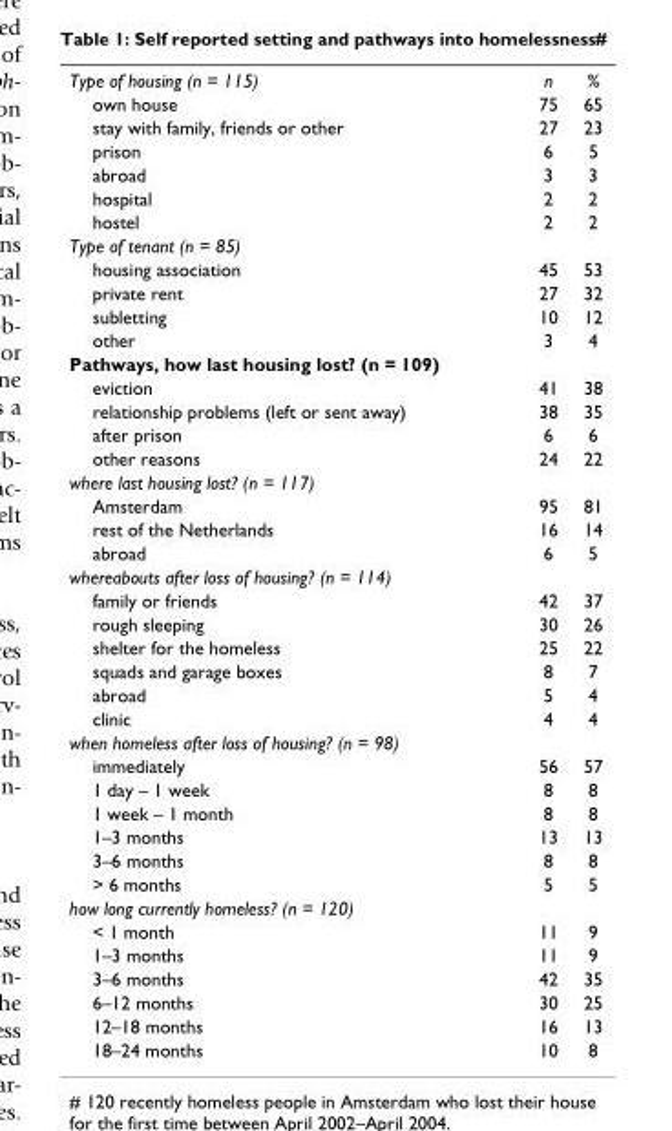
<table><tbody><tr><td>Type of housing (n = 115)</td><td>n</td><td>%</td></tr><tr><td>own house</td><td>75</td><td>65</td></tr><tr><td>stay with family, friends or other</td><td>27</td><td>23</td></tr><tr><td>prison</td><td>6</td><td>5</td></tr><tr><td>abroad</td><td>3</td><td>3</td></tr><tr><td>hospital</td><td>2</td><td>2</td></tr><tr><td>hostel</td><td>2</td><td>2</td></tr><tr><td colspan="3">Type of tenant (n = 85)</td></tr><tr><td>housing association</td><td>45</td><td>53</td></tr><tr><td>private rent</td><td>27</td><td>32</td></tr><tr><td>subletting</td><td>10</td><td>12</td></tr><tr><td>other</td><td>3</td><td>4</td></tr><tr><td colspan="3">Pathways, how last housing lost? (n = 109)</td></tr><tr><td>eviction</td><td>41</td><td>38</td></tr><tr><td>relationship problems (left or sent away)</td><td>38</td><td>35</td></tr><tr><td>after prison</td><td>6</td><td>6</td></tr><tr><td>other reasons</td><td>24</td><td>22</td></tr><tr><td colspan="3">where last housing lost? (n = 117)</td></tr><tr><td>Amsterdam</td><td>95</td><td>81</td></tr><tr><td>rest of the Netherlands</td><td>16</td><td>14</td></tr><tr><td>abroad</td><td>6</td><td>5</td></tr><tr><td colspan="3">whereabouts after loss of housing? (n = 114)</td></tr><tr><td>family or friends</td><td>42</td><td>37</td></tr><tr><td>rough sleeping</td><td>30</td><td>26</td></tr><tr><td>shelter for the homeless</td><td>25</td><td>22</td></tr><tr><td>squads and garage boxes</td><td>8</td><td>7</td></tr><tr><td>abroad</td><td>5</td><td>4</td></tr><tr><td>clinic</td><td>4</td><td>4</td></tr><tr><td colspan="3">when homeless after loss of housing? (n = 98)</td></tr><tr><td>immediately</td><td>56</td><td>57</td></tr><tr><td>1 day – 1 week</td><td>8</td><td>8</td></tr><tr><td>1 week – 1 month</td><td>8</td><td>8</td></tr><tr><td>1–3 months</td><td>13</td><td>13</td></tr><tr><td>3–6 months</td><td>8</td><td>8</td></tr><tr><td>&gt; 6 months</td><td>5</td><td>5</td></tr><tr><td colspan="3">how long currently homeless? (n = 120)</td></tr><tr><td>&lt; 1 month</td><td>11</td><td>9</td></tr><tr><td>1–3 months</td><td>11</td><td>9</td></tr><tr><td>3–6 months</td><td>42</td><td>35</td></tr><tr><td>6–12 months</td><td>30</td><td>25</td></tr><tr><td>12–18 months</td><td>16</td><td>13</td></tr><tr><td>18–24 months</td><td>10</td><td>8</td></tr></tbody></table>